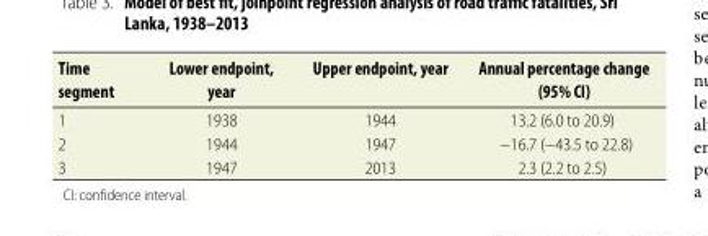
<table><thead><tr><td>Time segment</td><td>Lower endpoint, year</td><td>Upper endpoint, year</td><td>Annual percentage change (95% CI)</td></tr></thead><tbody><tr><td>1</td><td>1938</td><td>1944</td><td>13.2 (6.0 to 20.9)</td></tr><tr><td>2</td><td>1944</td><td>1947</td><td>−16.7 (−43.5 to 22.8)</td></tr><tr><td>3</td><td>1947</td><td>2013</td><td>2.3 (2.2 to 2.5)</td></tr></tbody></table>